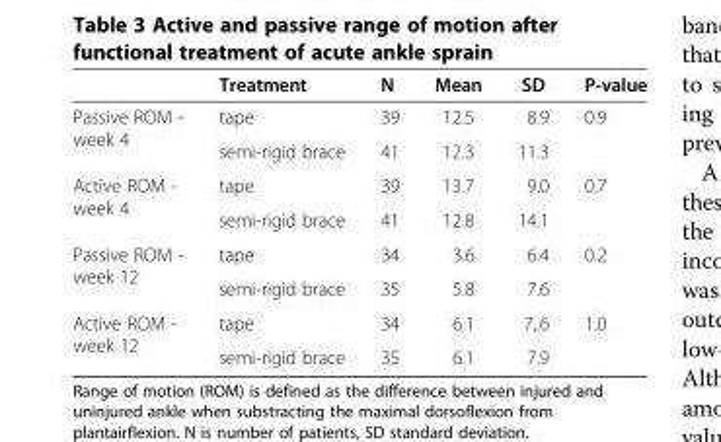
<table><thead><tr><td></td><td>Treatment</td><td>N</td><td>Mean</td><td>SD</td><td>P-value</td></tr></thead><tbody><tr><td rowspan="2">Passive ROM - week 4</td><td>tape</td><td>39</td><td>12.5</td><td>8.9</td><td rowspan="2">0.9</td></tr><tr><td>semi-rigid brace</td><td>41</td><td>12.3</td><td>11.3</td></tr><tr><td rowspan="2">Active ROM - week 4</td><td>tape</td><td>39</td><td>13.7</td><td>9.0</td><td rowspan="2">0.7</td></tr><tr><td>semi-rigid brace</td><td>41</td><td>12.8</td><td>14.1</td></tr><tr><td rowspan="2">Passive ROM - week 12</td><td>tape</td><td>34</td><td>3.6</td><td>6.4</td><td rowspan="2">0.2</td></tr><tr><td>semi-rigid brace</td><td>35</td><td>5.8</td><td>7.6</td></tr><tr><td rowspan="2">Active ROM - week 12</td><td>tape</td><td>34</td><td>6.1</td><td>7,.6</td><td rowspan="2">1.0</td></tr><tr><td>semi-rigid brace</td><td>35</td><td>6.1</td><td>7.9</td></tr></tbody></table>